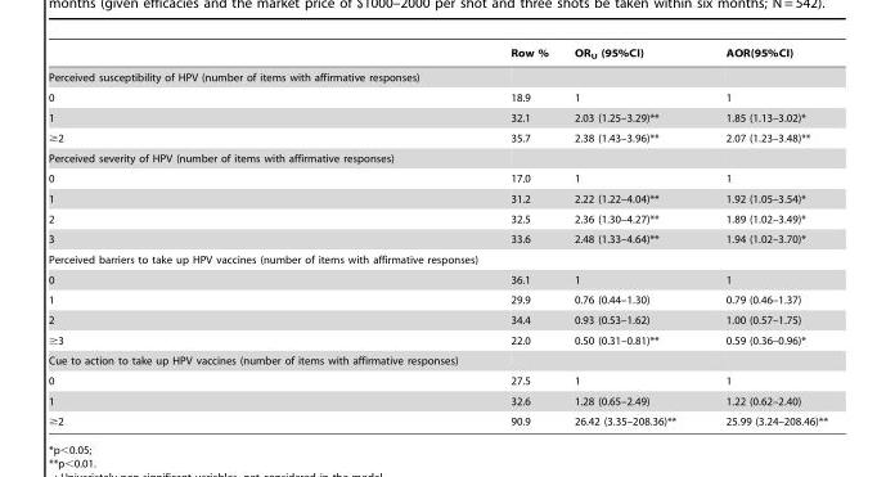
<table><thead><tr><td></td><td>Row %</td><td>OR<sub>U</sub> (95%CI)</td><td>AOR(95%CI)</td></tr></thead><tbody><tr><td colspan="4">Perceived susceptibility of HPV (number of items with affirmative responses)</td></tr><tr><td>0</td><td>18.9</td><td>1</td><td>1</td></tr><tr><td>1</td><td>32.1</td><td>2.03 (1.25–3.29)**</td><td>1.85 (1.13–3.02)*</td></tr><tr><td>≥2</td><td>35.7</td><td>2.38 (1.43–3.96)**</td><td>2.07 (1.23–3.48)**</td></tr><tr><td colspan="4">Perceived severity of HPV (number of items with affirmative responses)</td></tr><tr><td>0</td><td>17.0</td><td>1</td><td>1</td></tr><tr><td>1</td><td>31.2</td><td>2.22 (1.22–4.04)**</td><td>1.92 (1.05–3.54)*</td></tr><tr><td>2</td><td>32.5</td><td>2.36 (1.30–4.27)**</td><td>1.89 (1.02–3.49)*</td></tr><tr><td>3</td><td>33.6</td><td>2.48 (1.33–4.64)**</td><td>1.94 (1.02–3.70)*</td></tr><tr><td colspan="4">Perceived barriers to take up HPV vaccines (number of items with affirmative responses)</td></tr><tr><td>0</td><td>36.1</td><td>1</td><td>1</td></tr><tr><td>1</td><td>29.9</td><td>0.76 (0.44–1.30)</td><td>0.79 (0.46–1.37)</td></tr><tr><td>2</td><td>34.4</td><td>0.93 (0.53–1.62)</td><td>1.00 (0.57–1.75)</td></tr><tr><td>≥3</td><td>22.0</td><td>0.50 (0.31–0.81)**</td><td>0.59 (0.36–0.96)*</td></tr><tr><td colspan="4">Cue to action to take up HPV vaccines (number of items with affirmative responses)</td></tr><tr><td>0</td><td>27.5</td><td>1</td><td>1</td></tr><tr><td>1</td><td>32.6</td><td>1.28 (0.65–2.49)</td><td>1.22 (0.62–2.40)</td></tr><tr><td>≥2</td><td>90.9</td><td>26.42 (3.35–208.36)**</td><td>25.99 (3.24–208.46)**</td></tr></tbody></table>